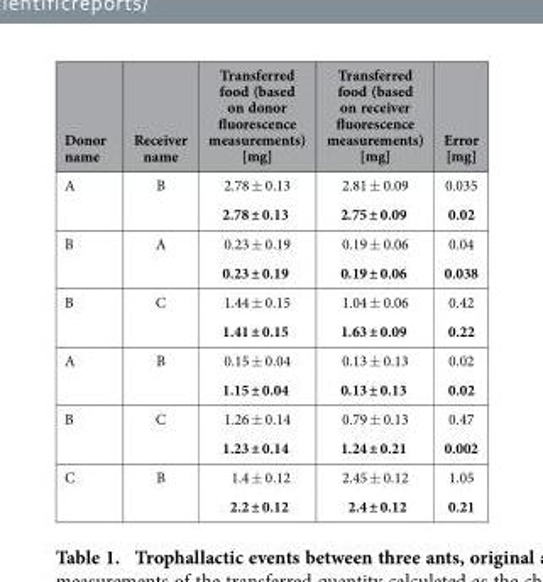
<table><thead><tr><td>Donor name</td><td>Receiver name</td><td>Transferred food (based on donor fluorescence measurements) [mg]</td><td>Transferred food (based on receiver fluorescence measurements) [mg]</td><td>Error [mg]</td></tr></thead><tbody><tr><td rowspan="2">A</td><td rowspan="2">B</td><td>2.78 ± 0.13</td><td>2.81 ± 0.09</td><td>0.035</td></tr><tr><td>2.78 ± 0.13</td><td>2.75 ± 0.09</td><td>0.02</td></tr><tr><td rowspan="2">B</td><td rowspan="2">A</td><td>0.23 ± 0.19</td><td>0.19 ± 0.06</td><td>0.04</td></tr><tr><td>0.23 ± 0.19</td><td>0.19 ± 0.06</td><td>0.038</td></tr><tr><td rowspan="2">B</td><td rowspan="2">C</td><td>1.44 ± 0.15</td><td>1.04 ± 0.06</td><td>0.42</td></tr><tr><td>1.41 ± 0.15</td><td>1.63 ± 0.09</td><td>0.22</td></tr><tr><td rowspan="2">A</td><td rowspan="2">B</td><td>0.15 ± 0.04</td><td>0.13 ± 0.13</td><td>0.02</td></tr><tr><td>1.15 ± 0.04</td><td>0.13 ± 0.13</td><td>0.02</td></tr><tr><td rowspan="2">B</td><td rowspan="2">C</td><td>1.26 ± 0.14</td><td>0.79 ± 0.13</td><td>0.47</td></tr><tr><td>1.23 ± 0.14</td><td>1.24 ± 0.21</td><td>0.002</td></tr><tr><td rowspan="2">C</td><td rowspan="2">B</td><td>1.4 ± 0.12</td><td>2.45 ± 0.12</td><td>1.05</td></tr><tr><td>2.2 ± 0.12</td><td>2.4 ± 0.12</td><td>0.21</td></tr></tbody></table>